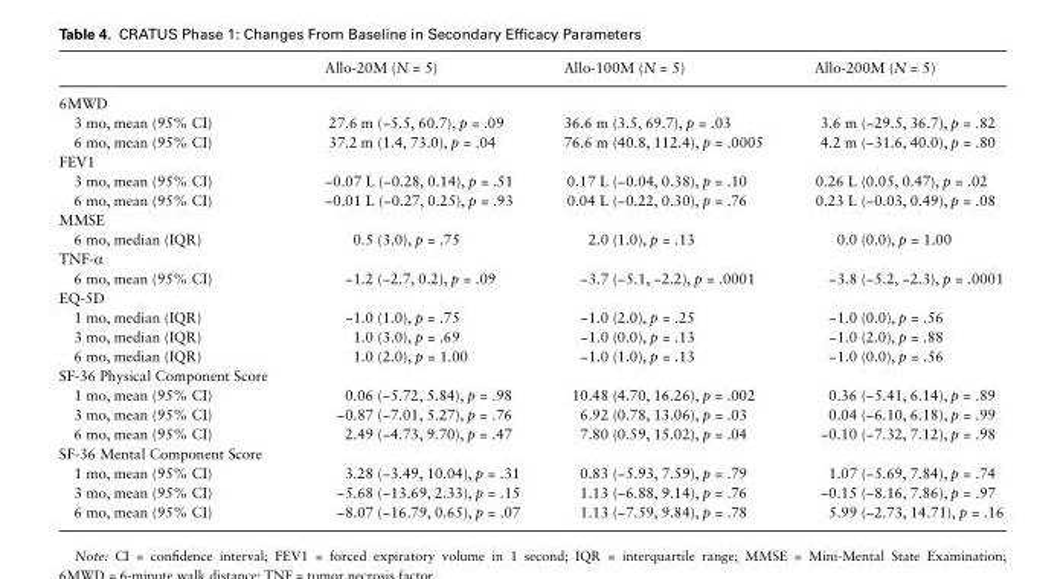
<table><thead><tr><td></td><td>Allo-20M (N = 5)</td><td>Allo-100M (N = 5)</td><td>Allo-200M (N = 5)</td></tr></thead><tbody><tr><td colspan="4">6MWD</td></tr><tr><td>3 mo, mean (95% CI)</td><td>27.6 m (−5.5, 60.7), p = .09</td><td>36.6 m (3.5, 69.7), p = .03</td><td>3.6 m (−29.5, 36.7), p = .82</td></tr><tr><td>6 mo, mean (95% CI)</td><td>37.2 m (1.4, 73.0), p = .04</td><td>76.6 m (40.8, 112.4), p = .0005</td><td>4.2 m (−31.6, 40.0), p = .80</td></tr><tr><td colspan="4">FEV1</td></tr><tr><td>3 mo, mean (95% CI)</td><td>−0.07 L (−0.28, 0.14), p = .51</td><td>0.17 L (−0.04, 0.38), p = .10</td><td>0.26 L (0.05, 0.47), p = .02</td></tr><tr><td>6 mo, mean (95% CI)</td><td>−0.01 L (−0.27, 0.25), p = .93</td><td>0.04 L (−0.22, 0.30), p = .76</td><td>0.23 L (−0.03, 0.49), p = .08</td></tr><tr><td colspan="4">MMSE</td></tr><tr><td>6 mo, median (IQR)</td><td>0.5 (3.0), p = .75</td><td>2.0 (1.0), p = .13</td><td>0.0 (0.0), p = 1.00</td></tr><tr><td colspan="4">TNF-α</td></tr><tr><td>6 mo, mean (95% CI)</td><td>−1.2 (−2.7, 0.2), p = .09</td><td>−3.7 (−5.1, −2.2), p = .0001</td><td>−3.8 (−5.2, −2.3), p = .0001</td></tr><tr><td colspan="4">EQ-5D</td></tr><tr><td>1 mo, median (IQR)</td><td>−1.0 (1.0), p = .75</td><td>−1.0 (2.0), p = .25</td><td>−1.0 (0.0), p = .56</td></tr><tr><td>3 mo, median (IQR)</td><td>1.0 (3.0), p = .69</td><td>−1.0 (0.0), p = .13</td><td>−1.0 (2.0), p = .88</td></tr><tr><td>6 mo, median (IQR)</td><td>1.0 (2.0), p = 1.00</td><td>−1.0 (1.0), p = .13</td><td>−1.0 (0.0), p = .56</td></tr><tr><td colspan="4">SF-36 Physical Component Score</td></tr><tr><td>1 mo, mean (95% CI)</td><td>0.06 (−5.72, 5.84), p = .98</td><td>10.48 (4.70, 16.26), p = .002</td><td>0.36 (−5.41, 6.14), p = .89</td></tr><tr><td>3 mo, mean (95% CI)</td><td>−0.87 (−7.01, 5.27), p = .76</td><td>6.92 (0.78, 13.06), p = .03</td><td>0.04 (−6.10, 6.18), p = .99</td></tr><tr><td>6 mo, mean (95% CI)</td><td>2.49 (−4.73, 9.70), p = .47</td><td>7.80 (0.59, 15.02), p = .04</td><td>−0.10 (−7.32, 7.12), p = .98</td></tr><tr><td colspan="4">SF-36 Mental Component Score</td></tr><tr><td>1 mo, mean (95% CI)</td><td>3.28 (−3.49, 10.04), p = .31</td><td>0.83 (−5.93, 7.59), p = .79</td><td>1.07 (−5.69, 7.84), p = .74</td></tr><tr><td>3 mo, mean (95% CI)</td><td>−5.68 (−13.69, 2.33), p = .15</td><td>1.13 (−6.88, 9.14), p = .76</td><td>−0.15 (−8.16, 7.86), p = .97</td></tr><tr><td>6 mo, mean (95% CI)</td><td>−8.07 (−16.79, 0.65), p = .07</td><td>1.13 (−7.59, 9.84), p = .78</td><td>5.99 (−2.73, 14.71), p = .16</td></tr></tbody></table>